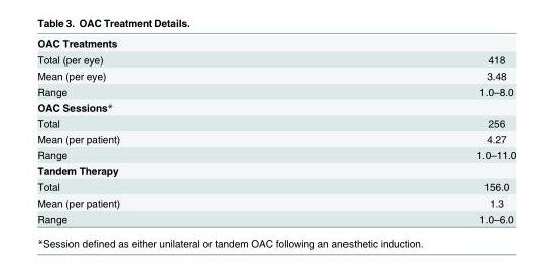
<table><tbody><tr><td colspan="2">OAC Treatments</td></tr><tr><td>Total (per eye)</td><td>418</td></tr><tr><td>Mean (per eye)</td><td>3.48</td></tr><tr><td>Range</td><td>1.0–8.0</td></tr><tr><td colspan="2">OAC Sessions*</td></tr><tr><td>Total</td><td>256</td></tr><tr><td>Mean (per patient)</td><td>4.27</td></tr><tr><td>Range</td><td>1.0–11.0</td></tr><tr><td colspan="2">Tandem Therapy</td></tr><tr><td>Total</td><td>156.0</td></tr><tr><td>Mean (per patient)</td><td>1.3</td></tr><tr><td>Range</td><td>1.0–6.0</td></tr></tbody></table>